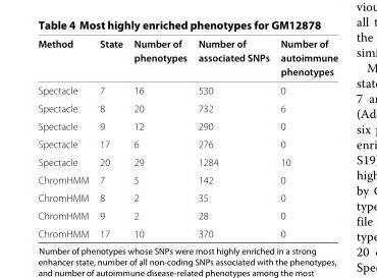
<table><thead><tr><td rowspan="3">Method</td><td rowspan="3">State</td><td rowspan="3">Number of phenotypes</td><td rowspan="3">Number of associated SNPs</td><td rowspan="3">Number of autoimmune phenotypes</td></tr><tr></tr><tr></tr></thead><tbody><tr><td>Spectacle</td><td>7</td><td>16</td><td>530</td><td>0</td></tr><tr><td>Spectacle</td><td>8</td><td>20</td><td>732</td><td>6</td></tr><tr><td>Spectacle</td><td>9</td><td>12</td><td>290</td><td>0</td></tr><tr><td>Spectacle</td><td>17</td><td>6</td><td>276</td><td>0</td></tr><tr><td>Spectacle</td><td>20</td><td>29</td><td>1284</td><td>10</td></tr><tr><td>ChromHMM</td><td>7</td><td>5</td><td>142</td><td>0</td></tr><tr><td>ChromHMM</td><td>8</td><td>2</td><td>35</td><td>0</td></tr><tr><td>ChromHMM</td><td>9</td><td>2</td><td>28</td><td>0</td></tr><tr><td>ChromHMM</td><td>17</td><td>10</td><td>370</td><td>0</td></tr></tbody></table>